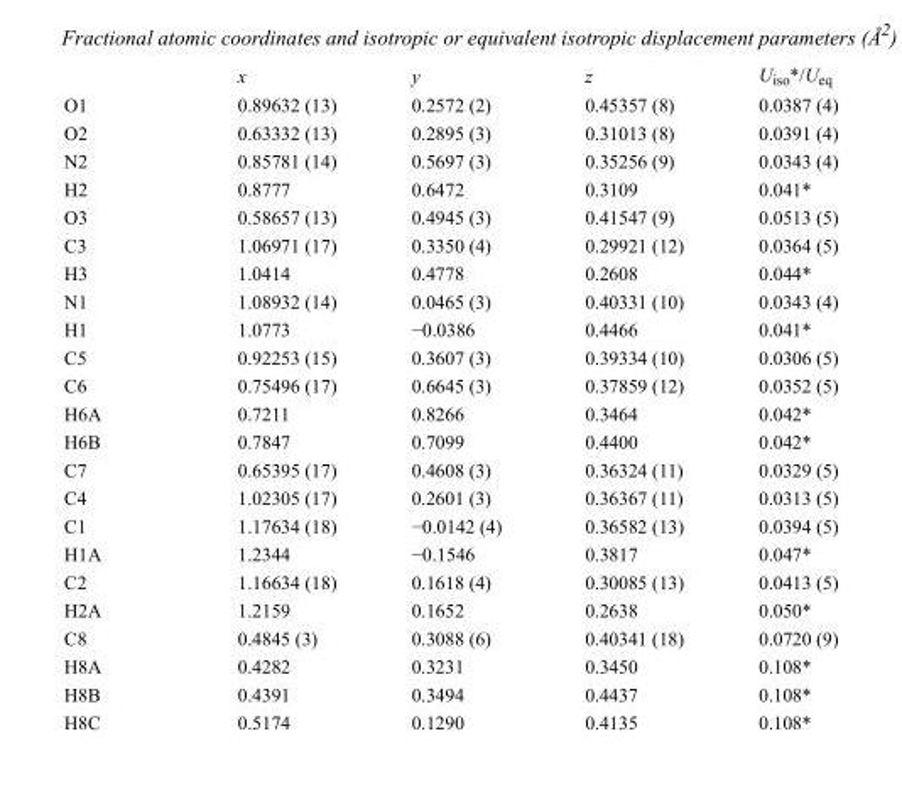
<table><thead><tr><td></td><td>x</td><td>y</td><td>z</td><td>U<sub>iso</sub>*/U<sub>eq</sub></td></tr></thead><tbody><tr><td>O1</td><td>0.89632 (13)</td><td>0.2572 (2)</td><td>0.45357 (8)</td><td>0.0387 (4)</td></tr><tr><td>O2</td><td>0.63332 (13)</td><td>0.2895 (3)</td><td>0.31013 (8)</td><td>0.0391 (4)</td></tr><tr><td>N2</td><td>0.85781 (14)</td><td>0.5697 (3)</td><td>0.35256 (9)</td><td>0.0343 (4)</td></tr><tr><td>H2</td><td>0.8777</td><td>0.6472</td><td>0.3109</td><td>0.041*</td></tr><tr><td>O3</td><td>0.58657 (13)</td><td>0.4945 (3)</td><td>0.41547 (9)</td><td>0.0513 (5)</td></tr><tr><td>C3</td><td>1.06971 (17)</td><td>0.3350 (4)</td><td>0.29921 (12)</td><td>0.0364 (5)</td></tr><tr><td>H3</td><td>1.0414</td><td>0.4778</td><td>0.2608</td><td>0.044*</td></tr><tr><td>N1</td><td>1.08932 (14)</td><td>0.0465 (3)</td><td>0.40331 (10)</td><td>0.0343 (4)</td></tr><tr><td>H1</td><td>1.0773</td><td>−0.0386</td><td>0.4466</td><td>0.041*</td></tr><tr><td>C5</td><td>0.92253 (15)</td><td>0.3607 (3)</td><td>0.39334 (10)</td><td>0.0306 (5)</td></tr><tr><td>C6</td><td>0.75496 (17)</td><td>0.6645 (3)</td><td>0.37859 (12)</td><td>0.0352 (5)</td></tr><tr><td>H6A</td><td>0.7211</td><td>0.8266</td><td>0.3464</td><td>0.042*</td></tr><tr><td>H6B</td><td>0.7847</td><td>0.7099</td><td>0.4400</td><td>0.042*</td></tr><tr><td>C7</td><td>0.65395 (17)</td><td>0.4608 (3)</td><td>0.36324 (11)</td><td>0.0329 (5)</td></tr><tr><td>C4</td><td>1.02305 (17)</td><td>0.2601 (3)</td><td>0.36367 (11)</td><td>0.0313 (5)</td></tr><tr><td>C1</td><td>1.17634 (18)</td><td>−0.0142 (4)</td><td>0.36582 (13)</td><td>0.0394 (5)</td></tr><tr><td>H1A</td><td>1.2344</td><td>−0.1546</td><td>0.3817</td><td>0.047*</td></tr><tr><td>C2</td><td>1.16634 (18)</td><td>0.1618 (4)</td><td>0.30085 (13)</td><td>0.0413 (5)</td></tr><tr><td>H2A</td><td>1.2159</td><td>0.1652</td><td>0.2638</td><td>0.050*</td></tr><tr><td>C8</td><td>0.4845 (3)</td><td>0.3088 (6)</td><td>0.40341 (18)</td><td>0.0720 (9)</td></tr><tr><td>H8A</td><td>0.4282</td><td>0.3231</td><td>0.3450</td><td>0.108*</td></tr><tr><td>H8B</td><td>0.4391</td><td>0.3494</td><td>0.4437</td><td>0.108*</td></tr><tr><td>H8C</td><td>0.5174</td><td>0.1290</td><td>0.4135</td><td>0.108*</td></tr></tbody></table>